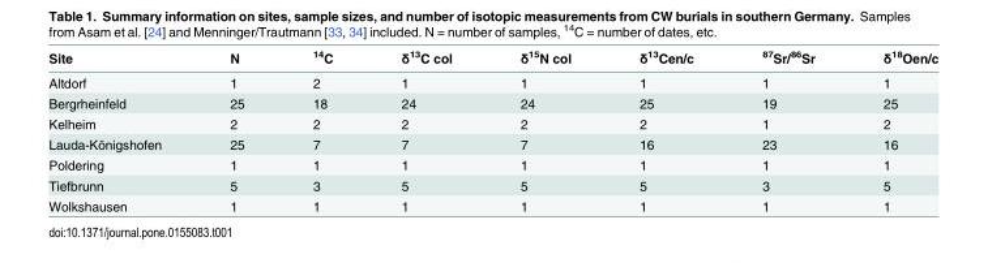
<table><thead><tr><td>Site</td><td>N</td><td><sup>14</sup>C</td><td>δ<sup>13</sup>C col</td><td>δ<sup>15</sup>N col</td><td>δ<sup>13</sup>Cen/c</td><td><sup>87</sup>Sr/<sup>86</sup>Sr</td><td>δ<sup>18</sup>Oen/c</td></tr></thead><tbody><tr><td>Altdorf</td><td>1</td><td>2</td><td>1</td><td>1</td><td>1</td><td>1</td><td>1</td></tr><tr><td>Bergrheinfeld</td><td>25</td><td>18</td><td>24</td><td>24</td><td>25</td><td>19</td><td>25</td></tr><tr><td>Kelheim</td><td>2</td><td>2</td><td>2</td><td>2</td><td>2</td><td>1</td><td>2</td></tr><tr><td>Lauda-Königshofen</td><td>25</td><td>7</td><td>7</td><td>7</td><td>16</td><td>23</td><td>16</td></tr><tr><td>Poldering</td><td>1</td><td>1</td><td>1</td><td>1</td><td>1</td><td>1</td><td>1</td></tr><tr><td>Tiefbrunn</td><td>5</td><td>3</td><td>5</td><td>5</td><td>5</td><td>3</td><td>5</td></tr><tr><td>Wolkshausen</td><td>1</td><td>1</td><td>1</td><td>1</td><td>1</td><td>1</td><td>1</td></tr></tbody></table>